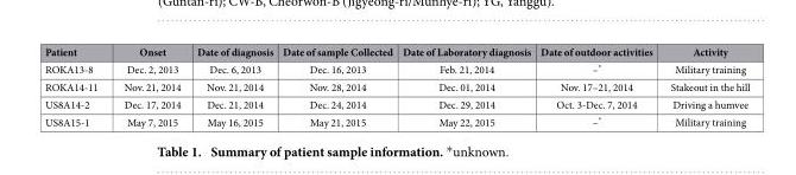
<table><thead><tr><td>Patient</td><td>Onset</td><td>Date of diagnosis</td><td>Date of sample Collected</td><td>Date of Laboratory diagnosis</td><td>Date of outdoor activities</td><td>Activity</td></tr></thead><tbody><tr><td>ROKA13-8</td><td>Dec. 2, 2013</td><td>Dec. 6, 2013</td><td>Dec. 16, 2013</td><td>Feb. 21, 2014</td><td>–*</td><td>Military training</td></tr><tr><td>ROKA14-11</td><td>Nov. 21, 2014</td><td>Nov. 21, 2014</td><td>Nov. 28, 2014</td><td>Dec. 01, 2014</td><td>Nov. 17–21, 2014</td><td>Stakeout in the hill</td></tr><tr><td>US8A14-2</td><td>Dec. 17, 2014</td><td>Dec. 21, 2014</td><td>Dec. 24, 2014</td><td>Dec. 29, 2014</td><td>Oct. 3-Dec. 7, 2014</td><td>Driving a humvee</td></tr><tr><td>US8A15-1</td><td>May 7, 2015</td><td>May 16, 2015</td><td>May 21, 2015</td><td>May 22, 2015</td><td>–*</td><td>Military training</td></tr></tbody></table>